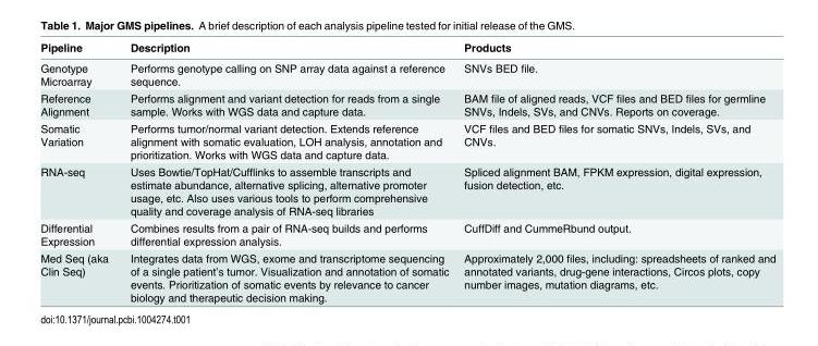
<table><thead><tr><td>Pipeline</td><td>Description</td><td>Products</td></tr></thead><tbody><tr><td>Genotype Microarray</td><td>Performs genotype calling on SNP array data against a reference sequence.</td><td>SNVs BED file.</td></tr><tr><td>Reference Alignment</td><td>Performs alignment and variant detection for reads from a single sample. Works with WGS data and capture data.</td><td>BAM file of aligned reads, VCF files and BED files for germline SNVs, Indels, SVs, and CNVs. Reports on coverage.</td></tr><tr><td>Somatic Variation</td><td>Performs tumor/normal variant detection. Extends reference alignment with somatic evaluation, LOH analysis, annotation and prioritization. Works with WGS data and capture data.</td><td>VCF files and BED files for somatic SNVs, Indels, SVs, and CNVs.</td></tr><tr><td>RNA-seq</td><td>Uses Bowtie/TopHat/Cufflinks to assemble transcripts and estimate abundance, alternative splicing, alternative promoter usage, etc. Also uses various tools to perform comprehensive quality and coverage analysis of RNA-seq libraries</td><td>Spliced alignment BAM, FPKM expression, digital expression, fusion detection, etc.</td></tr><tr><td>Differential Expression</td><td>Combines results from a pair of RNA-seq builds and performs differential expression analysis.</td><td>CuffDiff and CummeRbund output.</td></tr><tr><td>Med Seq (aka Clin Seq)</td><td>Integrates data from WGS, exome and transcriptome sequencing of a single patient’s tumor. Visualization and annotation of somatic events. Prioritization of somatic events by relevance to cancer biology and therapeutic decision making.</td><td>Approximately 2,000 files, including: spreadsheets of ranked and annotated variants, drug-gene interactions, Circos plots, copy number images, mutation diagrams, etc.</td></tr></tbody></table>